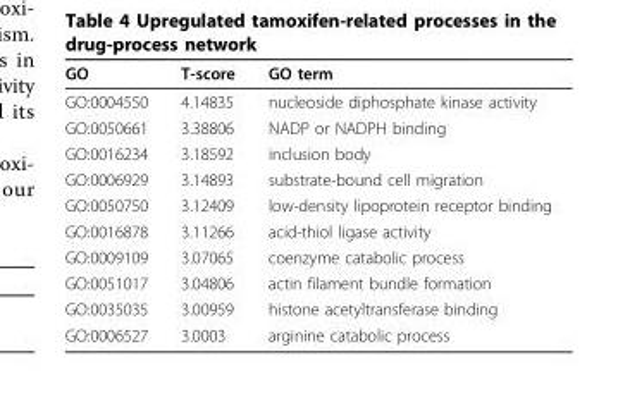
<table><thead><tr><td>GO</td><td>T-score</td><td>GO term</td></tr></thead><tbody><tr><td>GO:0004550</td><td>4.14835</td><td>nucleoside diphosphate kinase activity</td></tr><tr><td>GO:0050661</td><td>3.38806</td><td>NADP or NADPH binding</td></tr><tr><td>GO:0016234</td><td>3.18592</td><td>inclusion body</td></tr><tr><td>GO:0006929</td><td>3.14893</td><td>substrate-bound cell migration</td></tr><tr><td>GO:0050750</td><td>3.12409</td><td>low-density lipoprotein receptor binding</td></tr><tr><td>GO:0016878</td><td>3.11266</td><td>acid-thiol ligase activity</td></tr><tr><td>GO:0009109</td><td>3.07065</td><td>coenzyme catabolic process</td></tr><tr><td>GO:0051017</td><td>3.04806</td><td>actin filament bundle formation</td></tr><tr><td>GO:0035035</td><td>3.00959</td><td>histone acetyltransferase binding</td></tr><tr><td>GO:0006527</td><td>3.0003</td><td>arginine catabolic process</td></tr></tbody></table>